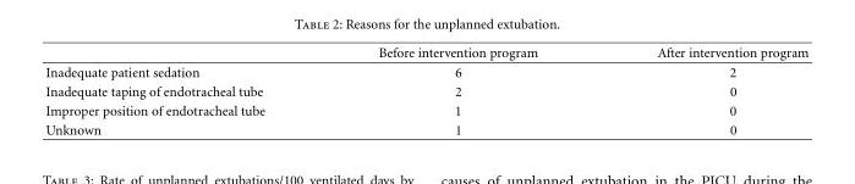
<table><thead><tr><td></td><td>Before intervention program</td><td>After intervention program</td></tr></thead><tbody><tr><td>Inadequate patient sedation</td><td>6</td><td>2</td></tr><tr><td>Inadequate taping of endotracheal tube</td><td>2</td><td>0</td></tr><tr><td>Improper position of endotracheal tube</td><td>1</td><td>0</td></tr><tr><td>Unknown</td><td>1</td><td>0</td></tr></tbody></table>